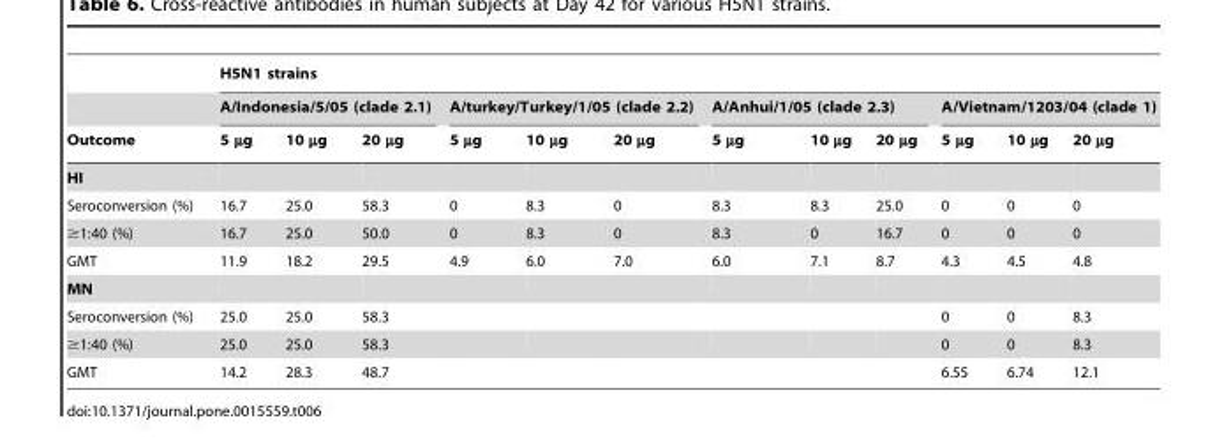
<table><thead><tr><td rowspan="3">Outcome</td><td colspan="12">H5N1 strains</td></tr><tr><td colspan="3">A/Indonesia/5/05 (clade 2.1)</td><td colspan="3">A/turkey/Turkey/1/05 (clade 2.2)</td><td colspan="3">A/Anhui/1/05 (clade 2.3)</td><td colspan="3">A/Vietnam/1203/04 (clade 1)</td></tr><tr><td>5 µg</td><td>10 µg</td><td>20 µg</td><td>5 µg</td><td>10 µg</td><td>20 µg</td><td>5 µg</td><td>10 µg</td><td>20 µg</td><td>5 µg</td><td>10 µg</td><td>20 µg</td></tr></thead><tbody><tr><td colspan="13">HI</td></tr><tr><td>Seroconversion (%)</td><td>16.7</td><td>25.0</td><td>58.3</td><td>0</td><td>8.3</td><td>0</td><td>8.3</td><td>8.3</td><td>25.0</td><td>0</td><td>0</td><td>0</td></tr><tr><td>≥1:40 (%)</td><td>16.7</td><td>25.0</td><td>50.0</td><td>0</td><td>8.3</td><td>0</td><td>8.3</td><td>0</td><td>16.7</td><td>0</td><td>0</td><td>0</td></tr><tr><td>GMT</td><td>11.9</td><td>18.2</td><td>29.5</td><td>4.9</td><td>6.0</td><td>7.0</td><td>6.0</td><td>7.1</td><td>8.7</td><td>4.3</td><td>4.5</td><td>4.8</td></tr><tr><td colspan="13">MN</td></tr><tr><td>Seroconversion (%)</td><td>25.0</td><td>25.0</td><td>58.3</td><td></td><td></td><td></td><td></td><td></td><td></td><td>0</td><td>0</td><td>8.3</td></tr><tr><td>≥1:40 (%)</td><td>25.0</td><td>25.0</td><td>58.3</td><td></td><td></td><td></td><td></td><td></td><td></td><td>0</td><td>0</td><td>8.3</td></tr><tr><td>GMT</td><td>14.2</td><td>28.3</td><td>48.7</td><td></td><td></td><td></td><td></td><td></td><td></td><td>6.55</td><td>6.74</td><td>12.1</td></tr></tbody></table>